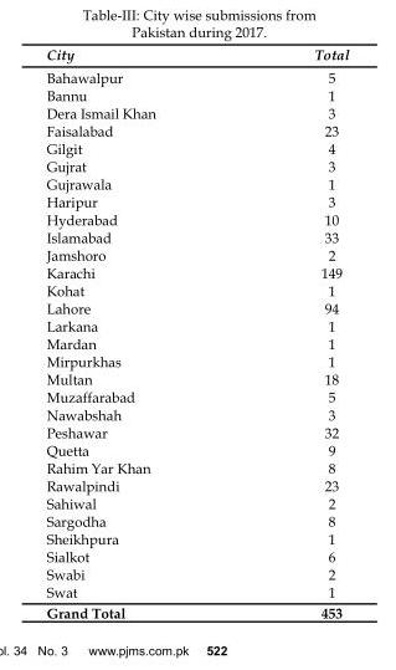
<table><thead><tr><td>City</td><td>Total</td></tr></thead><tbody><tr><td>Bahawalpur</td><td>5</td></tr><tr><td>Bannu</td><td>1</td></tr><tr><td>Dera Ismail Khan</td><td>3</td></tr><tr><td>Faisalabad</td><td>23</td></tr><tr><td>Gilgit</td><td>4</td></tr><tr><td>Gujrat</td><td>3</td></tr><tr><td>Gujrawala</td><td>1</td></tr><tr><td>Haripur</td><td>3</td></tr><tr><td>Hyderabad</td><td>10</td></tr><tr><td>Islamabad</td><td>33</td></tr><tr><td>Jamshoro</td><td>2</td></tr><tr><td>Karachi</td><td>149</td></tr><tr><td>Kohat</td><td>1</td></tr><tr><td>Lahore</td><td>94</td></tr><tr><td>Larkana</td><td>1</td></tr><tr><td>Mardan</td><td>1</td></tr><tr><td>Mirpurkhas</td><td>1</td></tr><tr><td>Multan</td><td>18</td></tr><tr><td>Muzaffarabad</td><td>5</td></tr><tr><td>Nawabshah</td><td>3</td></tr><tr><td>Peshawar</td><td>32</td></tr><tr><td>Quetta</td><td>9</td></tr><tr><td>Rahim Yar Khan</td><td>8</td></tr><tr><td>Rawalpindi</td><td>23</td></tr><tr><td>Sahiwal</td><td>2</td></tr><tr><td>Sargodha</td><td>8</td></tr><tr><td>Sheikhpura</td><td>1</td></tr><tr><td>Sialkot</td><td>6</td></tr><tr><td>Swabi</td><td>2</td></tr><tr><td>Swat</td><td>1</td></tr><tr><td>Grand Total</td><td>453</td></tr></tbody></table>